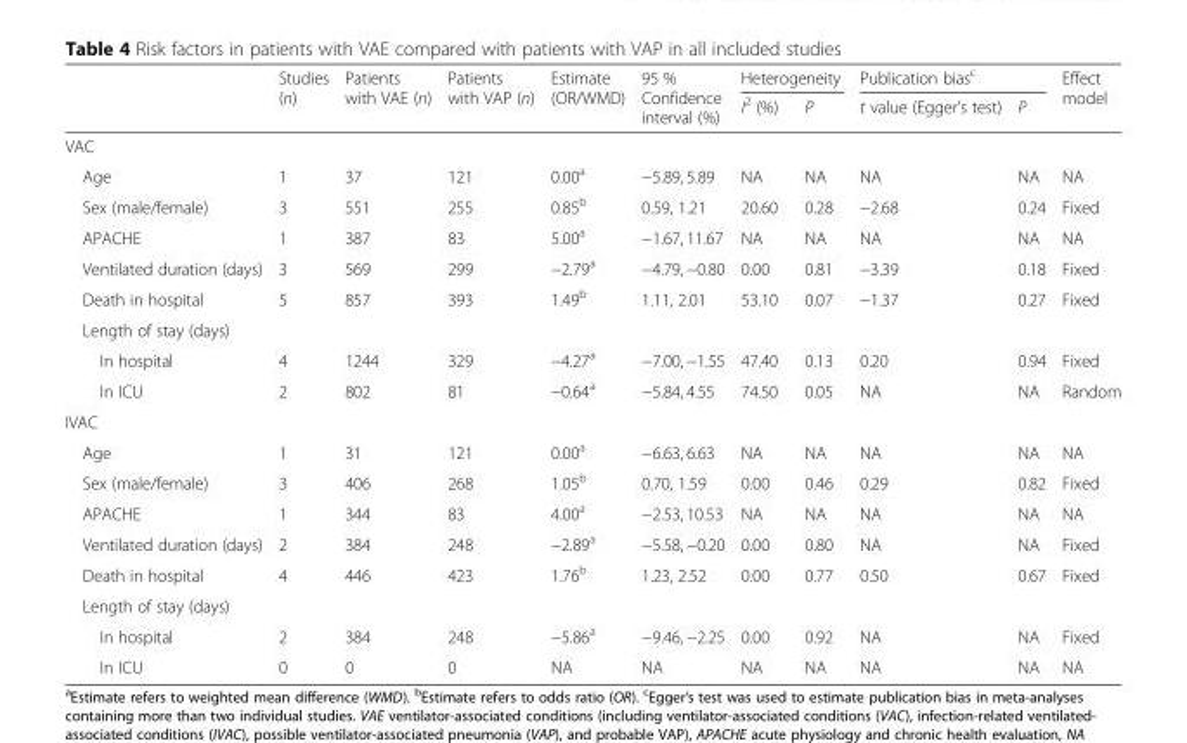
<table><thead><tr><td rowspan="2"></td><td rowspan="2">Studies (n)</td><td rowspan="2">Patients with VAE (n)</td><td rowspan="2">Patients with VAP (n)</td><td rowspan="2">Estimate (OR/WMD)</td><td rowspan="2">95 % Confidence interval (%)</td><td colspan="2">Heterogeneity</td><td colspan="2">Publication bias<sup>c</sup></td><td rowspan="2">Effect model</td></tr><tr><td>I<sup>2</sup> (%)</td><td>P</td><td>t value (Egger’s test)</td><td>P</td></tr></thead><tbody><tr><td colspan="11">VAC</td></tr><tr><td>Age</td><td>1</td><td>37</td><td>121</td><td>0.00<sup>a</sup></td><td>−5.89, 5.89</td><td>NA</td><td>NA</td><td>NA</td><td>NA</td><td>NA</td></tr><tr><td>Sex (male/female)</td><td>3</td><td>551</td><td>255</td><td>0.85<sup>b</sup></td><td>0.59, 1.21</td><td>20.60</td><td>0.28</td><td>−2.68</td><td>0.24</td><td>Fixed</td></tr><tr><td>APACHE</td><td>1</td><td>387</td><td>83</td><td>5.00<sup>a</sup></td><td>−1.67, 11.67</td><td>NA</td><td>NA</td><td>NA</td><td>NA</td><td>NA</td></tr><tr><td>Ventilated duration (days)</td><td>3</td><td>569</td><td>299</td><td>−2.79<sup>a</sup></td><td>−4.79, −0.80</td><td>0.00</td><td>0.81</td><td>−3.39</td><td>0.18</td><td>Fixed</td></tr><tr><td>Death in hospital</td><td>5</td><td>857</td><td>393</td><td>1.49<sup>b</sup></td><td>1.11, 2.01</td><td>53.10</td><td>0.07</td><td>−1.37</td><td>0.27</td><td>Fixed</td></tr><tr><td colspan="11">Length of stay (days)</td></tr><tr><td>In hospital</td><td>4</td><td>1244</td><td>329</td><td>−4.27<sup>a</sup></td><td>−7.00, −1.55</td><td>47.40</td><td>0.13</td><td>0.20</td><td>0.94</td><td>Fixed</td></tr><tr><td>In ICU</td><td>2</td><td>802</td><td>81</td><td>−0.64<sup>a</sup></td><td>−5.84, 4.55</td><td>74.50</td><td>0.05</td><td>NA</td><td>NA</td><td>Random</td></tr><tr><td colspan="11">IVAC</td></tr><tr><td>Age</td><td>1</td><td>31</td><td>121</td><td>0.00<sup>a</sup></td><td>−6.63, 6.63</td><td>NA</td><td>NA</td><td>NA</td><td>NA</td><td>NA</td></tr><tr><td>Sex (male/female)</td><td>3</td><td>406</td><td>268</td><td>1.05<sup>b</sup></td><td>0.70, 1.59</td><td>0.00</td><td>0.46</td><td>0.29</td><td>0.82</td><td>Fixed</td></tr><tr><td>APACHE</td><td>1</td><td>344</td><td>83</td><td>4.00<sup>a</sup></td><td>−2.53, 10.53</td><td>NA</td><td>NA</td><td>NA</td><td>NA</td><td>NA</td></tr><tr><td>Ventilated duration (days)</td><td>2</td><td>384</td><td>248</td><td>−2.89<sup>a</sup></td><td>−5.58, −0.20</td><td>0.00</td><td>0.80</td><td>NA</td><td>NA</td><td>Fixed</td></tr><tr><td>Death in hospital</td><td>4</td><td>446</td><td>423</td><td>1.76<sup>b</sup></td><td>1.23, 2.52</td><td>0.00</td><td>0.77</td><td>0.50</td><td>0.67</td><td>Fixed</td></tr><tr><td colspan="11">Length of stay (days)</td></tr><tr><td>In hospital</td><td>2</td><td>384</td><td>248</td><td>−5.86<sup>a</sup></td><td>−9.46, −2.25</td><td>0.00</td><td>0.92</td><td>NA</td><td>NA</td><td>Fixed</td></tr><tr><td>In ICU</td><td>0</td><td>0</td><td>0</td><td>NA</td><td>NA</td><td>NA</td><td>NA</td><td>NA</td><td>NA</td><td>NA</td></tr></tbody></table>